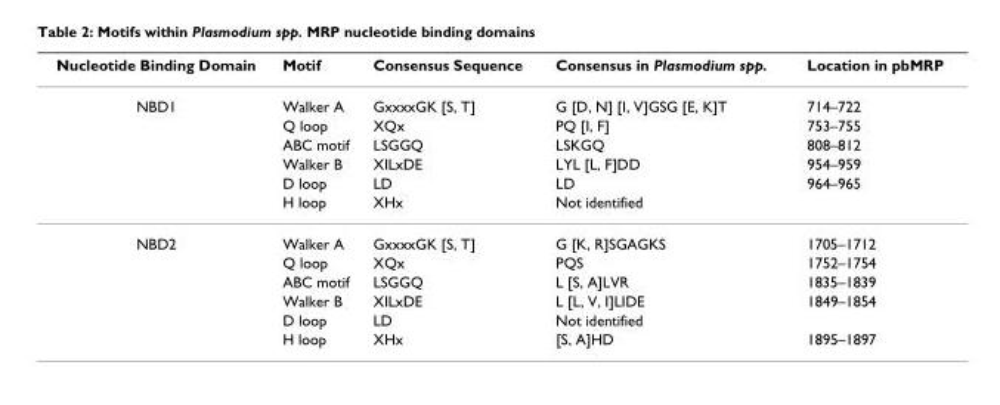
<table><thead><tr><td>Nucleotide Binding Domain</td><td>Motif</td><td>Consensus Sequence</td><td>Consensus in Plasmodium spp.</td><td>Location in pbMRP</td></tr></thead><tbody><tr><td rowspan="6">NBD1</td><td>Walker A</td><td>GxxxxGK [S, T]</td><td>G [D, N] [I, V]GSG [E, K]T</td><td>714–722</td></tr><tr><td>Q loop</td><td>XQx</td><td>PQ [I, F]</td><td>753–755</td></tr><tr><td>ABC motif</td><td>LSGGQ</td><td>LSKGQ</td><td>808–812</td></tr><tr><td>Walker B</td><td>XILxDE</td><td>LYL [L, F]DD</td><td>954–959</td></tr><tr><td>D loop</td><td>LD</td><td>LD</td><td>964–965</td></tr><tr><td>H loop</td><td>XHx</td><td>Not identified</td><td></td></tr><tr><td rowspan="6">NBD2</td><td>Walker A</td><td>GxxxxGK [S, T]</td><td>G [K, R]SGAGKS</td><td>1705–1712</td></tr><tr><td>Q loop</td><td>XQx</td><td>PQS</td><td>1752–1754</td></tr><tr><td>ABC motif</td><td>LSGGQ</td><td>L [S, A]LVR</td><td>1835–1839</td></tr><tr><td>Walker B</td><td>XILxDE</td><td>L [L, V, I]LIDE</td><td>1849–1854</td></tr><tr><td>D loop</td><td>LD</td><td>Not identified</td><td></td></tr><tr><td>H loop</td><td>XHx</td><td>[S, A]HD</td><td>1895–1897</td></tr></tbody></table>